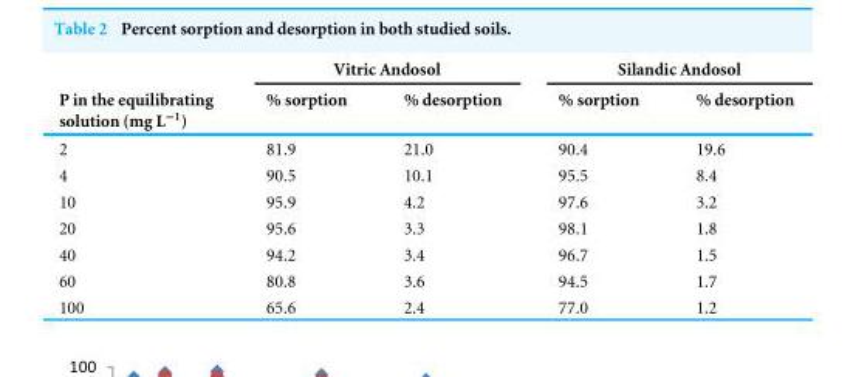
<table><thead><tr><td rowspan="2">P in the equilibrating solution (mg L<sup>−1</sup>)</td><td colspan="2">Vitric Andosol</td><td colspan="2">Silandic Andosol</td></tr><tr><td>% sorption</td><td>% desorption</td><td>% sorption</td><td>% desorption</td></tr></thead><tbody><tr><td>2</td><td>81.9</td><td>21.0</td><td>90.4</td><td>19.6</td></tr><tr><td>4</td><td>90.5</td><td>10.1</td><td>95.5</td><td>8.4</td></tr><tr><td>10</td><td>95.9</td><td>4.2</td><td>97.6</td><td>3.2</td></tr><tr><td>20</td><td>95.6</td><td>3.3</td><td>98.1</td><td>1.8</td></tr><tr><td>40</td><td>94.2</td><td>3.4</td><td>96.7</td><td>1.5</td></tr><tr><td>60</td><td>80.8</td><td>3.6</td><td>94.5</td><td>1.7</td></tr><tr><td>100</td><td>65.6</td><td>2.4</td><td>77.0</td><td>1.2</td></tr></tbody></table>